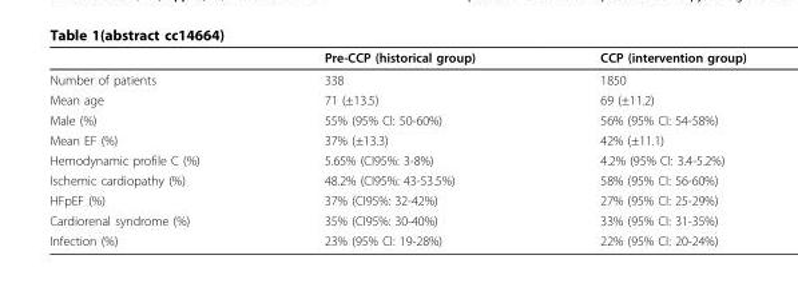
<table><thead><tr><td></td><td>Pre-CCP (historical group)</td><td>CCP (intervention group)</td></tr></thead><tbody><tr><td>Number of patients</td><td>338</td><td>1850</td></tr><tr><td>Mean age</td><td>71 (±13.5)</td><td>69 (±11.2)</td></tr><tr><td>Male (%)</td><td>55% (95% CI: 50-60%)</td><td>56% (95% CI: 54-58%)</td></tr><tr><td>Mean EF (%)</td><td>37% (±13.3)</td><td>42% (±11.1)</td></tr><tr><td>Hemodynamic profile C (%)</td><td>5.65% (CI95%: 3-8%)</td><td>4.2% (95% CI: 3.4-5.2%)</td></tr><tr><td>Ischemic cardiopathy (%)</td><td>48.2% (CI95%: 43-53.5%)</td><td>58% (95% CI: 56-60%)</td></tr><tr><td>HFpEF (%)</td><td>37% (CI95%: 32-42%)</td><td>27% (95% CI: 25-29%)</td></tr><tr><td>Cardiorenal syndrome (%)</td><td>35% (CI95%: 30-40%)</td><td>33% (95% CI: 31-35%)</td></tr><tr><td>Infection (%)</td><td>23% (95% CI: 19-28%)</td><td>22% (95% CI: 20-24%)</td></tr></tbody></table>